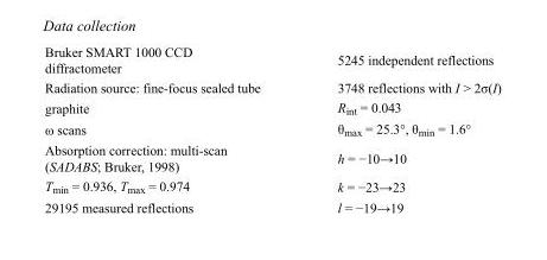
<table><tbody><tr><td>Bruker SMART 1000 CCD diffractometer</td><td>5245 independent reflections</td></tr><tr><td>Radiation source: fine-focus sealed tube</td><td>3748 reflections with I &gt; 2σ(I)</td></tr><tr><td>graphite</td><td>R<sub>int</sub> = 0.043</td></tr><tr><td>ω scans</td><td>θ<sub>max</sub> = 25.3°, θ<sub>min</sub> = 1.6°</td></tr><tr><td>Absorption correction: multi-scan (SADABS; Bruker, 1998)</td><td>h = −10→10</td></tr><tr><td>T<sub>min</sub> = 0.936, T<sub>max</sub> = 0.974</td><td>k = −23→23</td></tr><tr><td>29195 measured reflections</td><td>l = −19→19</td></tr></tbody></table>